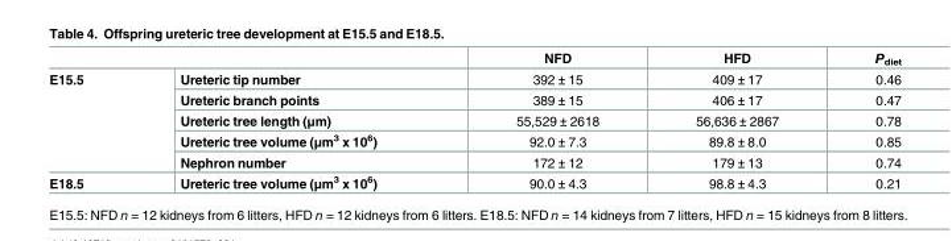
<table><thead><tr><td></td><td></td><td>NFD</td><td>HFD</td><td>P<sub>diet</sub></td></tr></thead><tbody><tr><td rowspan="5">E15.5</td><td>Ureteric tip number</td><td>392 ± 15</td><td>409 ± 17</td><td>0.46</td></tr><tr><td>Ureteric branch points</td><td>389 ± 15</td><td>406 ± 17</td><td>0.47</td></tr><tr><td>Ureteric tree length (μm)</td><td>55,529 ± 2618</td><td>56,636 ± 2867</td><td>0.78</td></tr><tr><td>Ureteric tree volume (μm<sup>3</sup> x 10<sup>6</sup>)</td><td>92.0 ± 7.3</td><td>89.8 ± 8.0</td><td>0.85</td></tr><tr><td>Nephron number</td><td>172 ± 12</td><td>179 ± 13</td><td>0.74</td></tr><tr><td>E18.5</td><td>Ureteric tree volume (μm<sup>3</sup> x 10<sup>6</sup>)</td><td>90.0 ± 4.3</td><td>98.8 ± 4.3</td><td>0.21</td></tr></tbody></table>